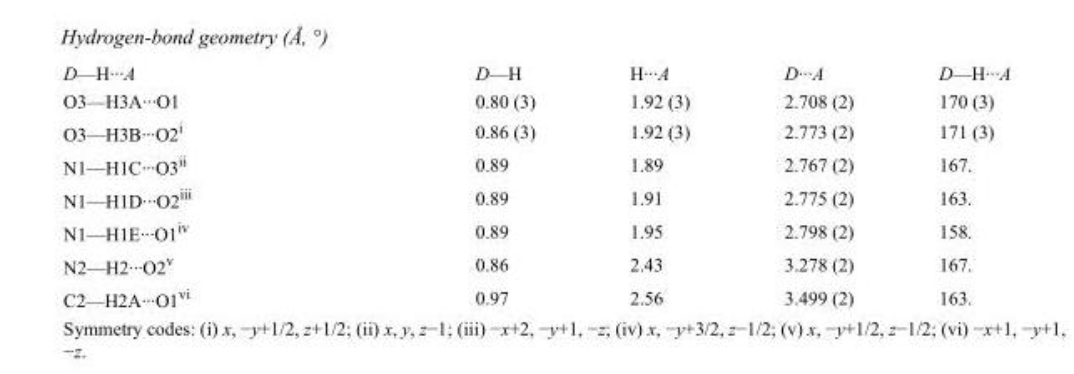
<table><tbody><tr><td>D—H···A</td><td>D—H</td><td>H···A</td><td>D···A</td><td>D—H···A</td></tr><tr><td>O3—H3A···O1</td><td>0.80 (3)</td><td>1.92 (3)</td><td>2.708 (2)</td><td>170 (3)</td></tr><tr><td>O3—H3B···O2<sup>i</sup></td><td>0.86 (3)</td><td>1.92 (3)</td><td>2.773 (2)</td><td>171 (3)</td></tr><tr><td>N1—H1C···O3<sup>ii</sup></td><td>0.89</td><td>1.89</td><td>2.767 (2)</td><td>167.</td></tr><tr><td>N1—H1D···O2<sup>iii</sup></td><td>0.89</td><td>1.91</td><td>2.775 (2)</td><td>163.</td></tr><tr><td>N1—H1E···O1<sup>iv</sup></td><td>0.89</td><td>1.95</td><td>2.798 (2)</td><td>158.</td></tr><tr><td>N2—H2···O2<sup>v</sup></td><td>0.86</td><td>2.43</td><td>3.278 (2)</td><td>167.</td></tr><tr><td>C2—H2A···O1<sup>vi</sup></td><td>0.97</td><td>2.56</td><td>3.499 (2)</td><td>163.</td></tr></tbody></table>